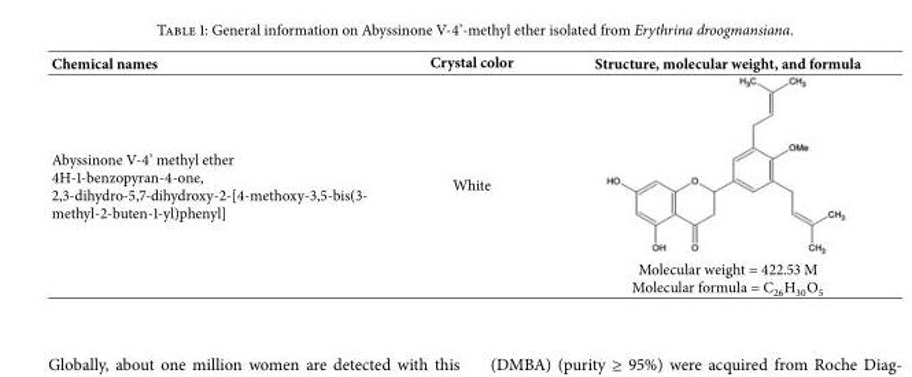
<table><thead><tr><td>Chemical names</td><td>Crystal color</td><td>Structure, molecular weight, and formula</td></tr></thead><tbody><tr><td>Abyssinone V-4’ methyl ether 4H-1-benzopyran-4-one, 2,3-dihydro-5,7-dihydroxy-2-[4-methoxy-3,5-bis(3- methyl-2-buten-1-yl)phenyl]</td><td>White</td><td>Molecular weight = 422.53 M Molecular formula = C26H30O5</td></tr></tbody></table>